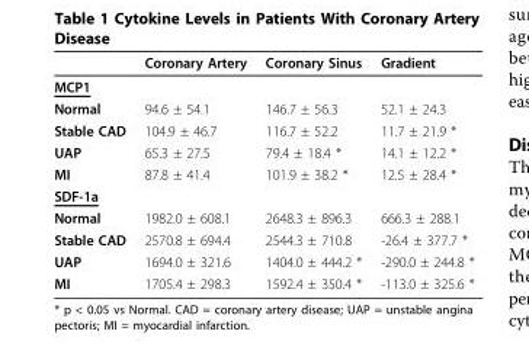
<table><thead><tr><td></td><td>Coronary Artery</td><td>Coronary Sinus</td><td>Gradient</td></tr></thead><tbody><tr><td colspan="4">MCP1</td></tr><tr><td>Normal</td><td>94.6 ± 54.1</td><td>146.7 ± 56.3</td><td>52.1 ± 24.3</td></tr><tr><td>Stable CAD</td><td>104.9 ± 46.7</td><td>116.7 ± 52.2</td><td>11.7 ± 21.9 *</td></tr><tr><td>UAP</td><td>65.3 ± 27.5</td><td>79.4 ± 18.4 *</td><td>14.1 ± 12.2 *</td></tr><tr><td>MI</td><td>87.8 ± 41.4</td><td>101.9 ± 38.2 *</td><td>12.5 ± 28.4 *</td></tr><tr><td colspan="4">SDF-1a</td></tr><tr><td>Normal</td><td>1982.0 ± 608.1</td><td>2648.3 ± 896.3</td><td>666.3 ± 288.1</td></tr><tr><td>Stable CAD</td><td>2570.8 ± 694.4</td><td>2544.3 ± 710.8</td><td>-26.4 ± 377.7 *</td></tr><tr><td>UAP</td><td>1694.0 ± 321.6</td><td>1404.0 ± 444.2 *</td><td>-290.0 ± 244.8 *</td></tr><tr><td>MI</td><td>1705.4 ± 298.3</td><td>1592.4 ± 350.4 *</td><td>-113.0 ± 325.6 *</td></tr></tbody></table>